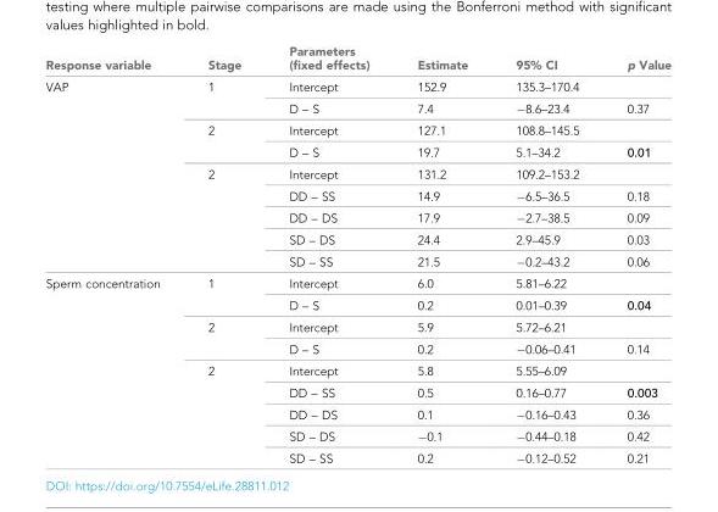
<table><thead><tr><td>Response variable</td><td>Stage</td><td>Parameters (fixed effects)</td><td>Estimate</td><td>95% CI</td><td>p Value</td></tr></thead><tbody><tr><td rowspan="9">VAP</td><td rowspan="2">1</td><td>Intercept</td><td>152.9</td><td>135.3–170.4</td><td></td></tr><tr><td>D – S</td><td>7.4</td><td>−8.6–23.4</td><td>0.37</td></tr><tr><td rowspan="2">2</td><td>Intercept</td><td>127.1</td><td>108.8–145.5</td><td></td></tr><tr><td>D – S</td><td>19.7</td><td>5.1–34.2</td><td>0.01</td></tr><tr><td rowspan="5">2</td><td>Intercept</td><td>131.2</td><td>109.2–153.2</td><td></td></tr><tr><td>DD – SS</td><td>14.9</td><td>−6.5–36.5</td><td>0.18</td></tr><tr><td>DD – DS</td><td>17.9</td><td>−2.7–38.5</td><td>0.09</td></tr><tr><td>SD – DS</td><td>24.4</td><td>2.9–45.9</td><td>0.03</td></tr><tr><td>SD – SS</td><td>21.5</td><td>−0.2–43.2</td><td>0.06</td></tr><tr><td rowspan="9">Sperm concentration</td><td rowspan="2">1</td><td>Intercept</td><td>6.0</td><td>5.81–6.22</td><td></td></tr><tr><td>D – S</td><td>0.2</td><td>0.01–0.39</td><td>0.04</td></tr><tr><td rowspan="2">2</td><td>Intercept</td><td>5.9</td><td>5.72–6.21</td><td></td></tr><tr><td>D – S</td><td>0.2</td><td>−0.06–0.41</td><td>0.14</td></tr><tr><td rowspan="5">2</td><td>Intercept</td><td>5.8</td><td>5.55–6.09</td><td></td></tr><tr><td>DD – SS</td><td>0.5</td><td>0.16–0.77</td><td>0.003</td></tr><tr><td>DD – DS</td><td>0.1</td><td>−0.16–0.43</td><td>0.36</td></tr><tr><td>SD – DS</td><td>−0.1</td><td>−0.44–0.18</td><td>0.42</td></tr><tr><td>SD – SS</td><td>0.2</td><td>−0.12–0.52</td><td>0.21</td></tr></tbody></table>